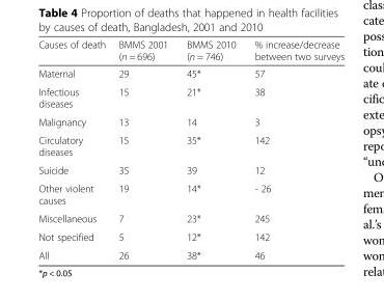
<table><thead><tr><td>Causes of death</td><td>BMMS 2001 (n = 696)</td><td>BMMS 2010 (n = 746)</td><td>% increase/decrease between two surveys</td></tr></thead><tbody><tr><td>Maternal</td><td>29</td><td>45*</td><td>57</td></tr><tr><td>Infectious diseases</td><td>15</td><td>21*</td><td>38</td></tr><tr><td>Malignancy</td><td>13</td><td>14</td><td>3</td></tr><tr><td>Circulatory diseases</td><td>15</td><td>35*</td><td>142</td></tr><tr><td>Suicide</td><td>35</td><td>39</td><td>12</td></tr><tr><td>Other violent causes</td><td>19</td><td>14*</td><td>- 26</td></tr><tr><td>Miscellaneous</td><td>7</td><td>23*</td><td>245</td></tr><tr><td>Not specified</td><td>5</td><td>12*</td><td>142</td></tr><tr><td>All</td><td>26</td><td>38*</td><td>46</td></tr></tbody></table>